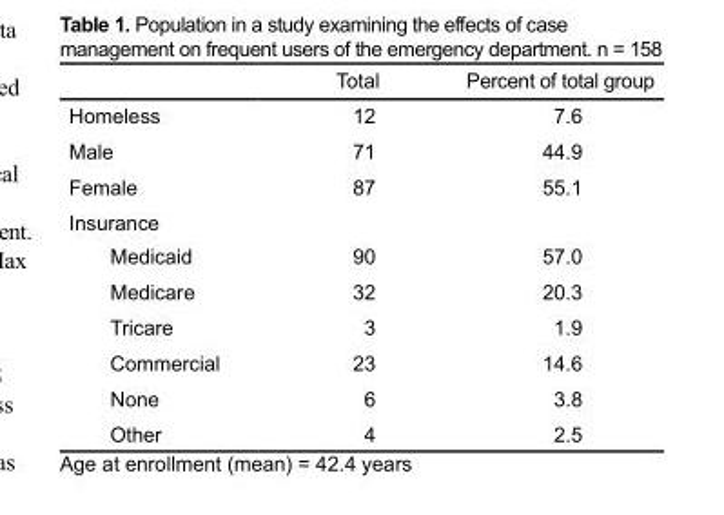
<table><thead><tr><td></td><td>Total</td><td>Percent of total group</td></tr></thead><tbody><tr><td>Homeless</td><td>12</td><td>7.6</td></tr><tr><td>Male</td><td>71</td><td>44.9</td></tr><tr><td>Female</td><td>87</td><td>55.1</td></tr><tr><td colspan="3">Insurance</td></tr><tr><td>Medicaid</td><td>90</td><td>57.0</td></tr><tr><td>Medicare</td><td>32</td><td>20.3</td></tr><tr><td>Tricare</td><td>3</td><td>1.9</td></tr><tr><td>Commercial</td><td>23</td><td>14.6</td></tr><tr><td>None</td><td>6</td><td>3.8</td></tr><tr><td>Other</td><td>4</td><td>2.5</td></tr></tbody></table>